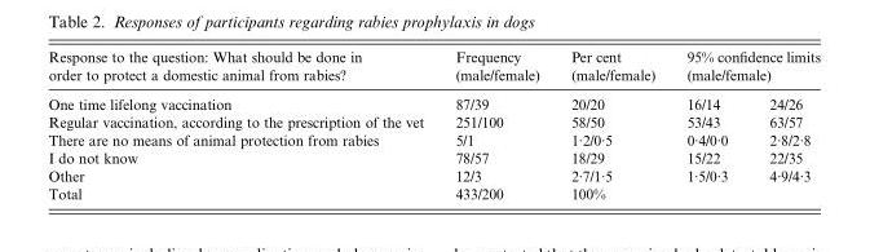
<table><thead><tr><td rowspan="2">Response to the question: What should be done in order to protect a domestic animal from rabies? One time lifelong vaccination</td><td rowspan="2">Frequency (male/female) 87/39</td><td rowspan="2">Per cent (male/female) 20/20</td><td colspan="2">95% confidence limits (male/female)</td></tr><tr><td>16/14</td><td>24/26</td></tr></thead><tbody><tr><td>Regular vaccination, according to the prescription of the vet</td><td>251/100</td><td>58/50</td><td>53/43</td><td>63/57</td></tr><tr><td>There are no means of animal protection from rabies</td><td>5/1</td><td>1·2/0·5</td><td>0·4/0·0</td><td>2·8/2·8</td></tr><tr><td>I do not know</td><td>78/57</td><td>18/29</td><td>15/22</td><td>22/35</td></tr><tr><td>Other</td><td>12/3</td><td>2·7/1·5</td><td>1·5/0·3</td><td>4·9/4·3</td></tr><tr><td>Total</td><td>433/200</td><td>100%</td><td></td><td></td></tr></tbody></table>